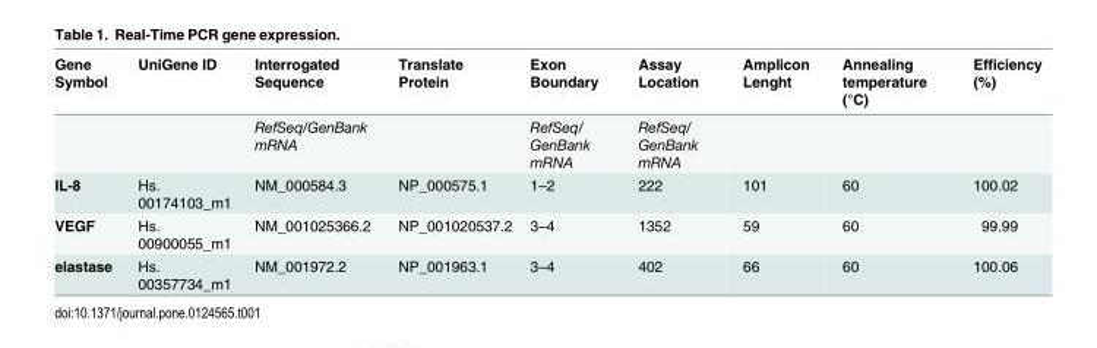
<table><thead><tr><td>Gene Symbol</td><td>UniGene ID</td><td>Interrogated Sequence</td><td>Translate Protein</td><td>Exon Boundary</td><td>Assay Location</td><td>Amplicon Lenght</td><td>Annealing temperature (°C)</td><td>Efficiency (%)</td></tr></thead><tbody><tr><td></td><td></td><td>RefSeq/GenBank mRNA</td><td></td><td>RefSeq/ GenBank mRNA</td><td>RefSeq/ GenBank mRNA</td><td></td><td></td><td></td></tr><tr><td>IL-8</td><td>Hs. 00174103_m1</td><td>NM_000584.3</td><td>NP_000575.1</td><td>1–2</td><td>222</td><td>101</td><td>60</td><td>100.02</td></tr><tr><td>VEGF</td><td>Hs. 00900055_m1</td><td>NM_001025366.2</td><td>NP_001020537.2</td><td>3–4</td><td>1352</td><td>59</td><td>60</td><td>99.99</td></tr><tr><td>elastase</td><td>Hs. 00357734_m1</td><td>NM_001972.2</td><td>NP_001963.1</td><td>3–4</td><td>402</td><td>66</td><td>60</td><td>100.06</td></tr></tbody></table>